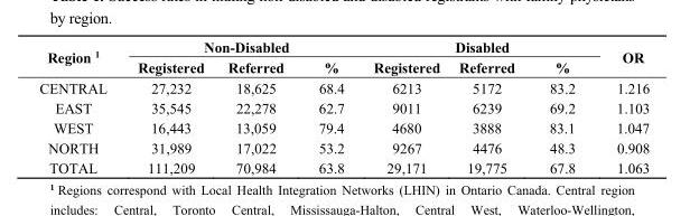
<table><thead><tr><td rowspan="2">Region <sup>1</sup></td><td colspan="3">Non-Disabled</td><td colspan="3">Disabled</td><td rowspan="2">OR</td></tr><tr><td>Registered</td><td>Referred</td><td>%</td><td>Registered</td><td>Referred</td><td>%</td></tr></thead><tbody><tr><td>CENTRAL</td><td>27,232</td><td>18,625</td><td>68.4</td><td>6213</td><td>5172</td><td>83.2</td><td>1.216</td></tr><tr><td>EAST</td><td>35,545</td><td>22,278</td><td>62.7</td><td>9011</td><td>6239</td><td>69.2</td><td>1.103</td></tr><tr><td>WEST</td><td>16,443</td><td>13,059</td><td>79.4</td><td>4680</td><td>3888</td><td>83.1</td><td>1.047</td></tr><tr><td>NORTH</td><td>31,989</td><td>17,022</td><td>53.2</td><td>9267</td><td>4476</td><td>48.3</td><td>0.908</td></tr><tr><td>TOTAL</td><td>111,209</td><td>70,984</td><td>63.8</td><td>29,171</td><td>19,775</td><td>67.8</td><td>1.063</td></tr></tbody></table>